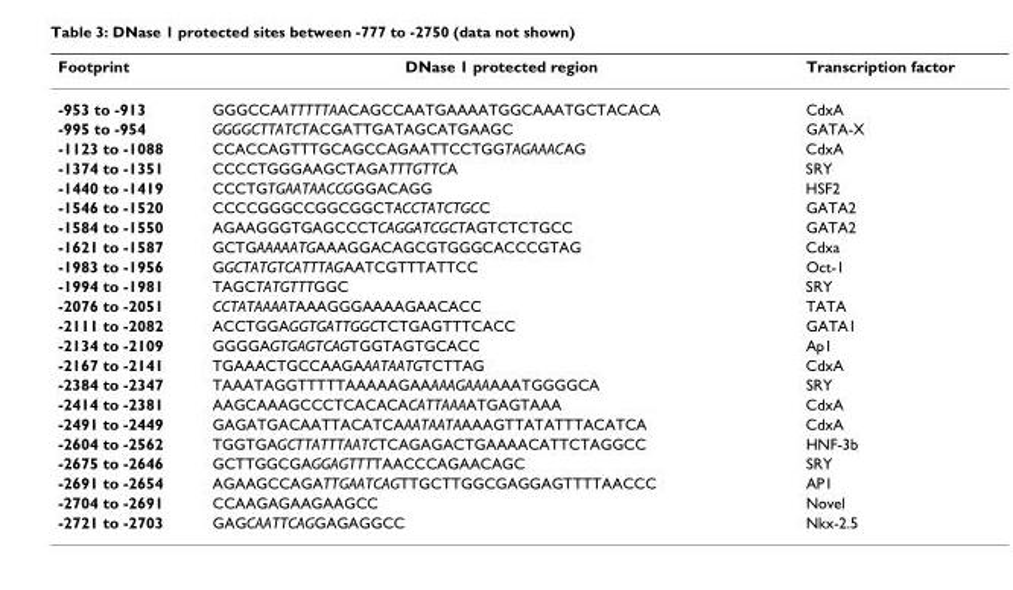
<table><thead><tr><td>Footprint</td><td>DNase 1 protected region</td><td>Transcription factor</td></tr></thead><tbody><tr><td>-953 to -913</td><td>GGGCCAATTTTTAACAGCCAATGAAAATGGCAAATGCTACACA</td><td>CdxA</td></tr><tr><td>-995 to -954</td><td>GGGGCTTATCTACGATTGATAGCATGAAGC</td><td>GATA-X</td></tr><tr><td>-1123 to -1088</td><td>CCACCAGTTTGCAGCCAGAATTCCTGGTAGAAACAG</td><td>CdxA</td></tr><tr><td>-1374 to -1351</td><td>CCCCTGGGAAGCTAGATTTGTTCA</td><td>SRY</td></tr><tr><td>-1440 to -1419</td><td>CCCTGTGAATAACCGGGACAGG</td><td>HSF2</td></tr><tr><td>-1546 to -1520</td><td>CCCCGGGCCGGCGGCTACCTATCTGCC</td><td>GATA2</td></tr><tr><td>-1584 to -1550</td><td>AGAAGGGTGAGCCCTCAGGATCGCTAGTCTCTGCC</td><td>GATA2</td></tr><tr><td>-1621 to -1587</td><td>GCTGAAAAATGAAAGGACAGCGTGGGCACCCGTAG</td><td>Cdxa</td></tr><tr><td>-1983 to -1956</td><td>GGCTATGTCATTTAGAATCGTTTATTCC</td><td>Oct-1</td></tr><tr><td>-1994 to -1981</td><td>TAGCTATGTTTGGC</td><td>SRY</td></tr><tr><td>-2076 to -2051</td><td>CCTATAAAATAAAGGGAAAAGAACACC</td><td>TATA</td></tr><tr><td>-2111 to -2082</td><td>ACCTGGAGGTGATTGGCTCTGAGTTTCACC</td><td>GATA1</td></tr><tr><td>-2134 to -2109</td><td>GGGGAGTGAGTCAGTGGTAGTGCACC</td><td>Ap1</td></tr><tr><td>-2167 to -2141</td><td>TGAAACTGCCAAGAAATAATGTCTTAG</td><td>CdxA</td></tr><tr><td>-2384 to -2347</td><td>TAAATAGGTTTTTAAAAAGAAAAAGAAAAAATGGGGCA</td><td>SRY</td></tr><tr><td>-2414 to -2381</td><td>AAGCAAAGCCCTCACACACATTAAAATGAGTAAA</td><td>CdxA</td></tr><tr><td>-2491 to -2449</td><td>GAGATGACAATTACATCAAATAATAAAAGTTATATTTACATCA</td><td>CdxA</td></tr><tr><td>-2604 to -2562</td><td>TGGTGAGCTTATTTAATCTCAGAGACTGAAAACATTCTAGGCC</td><td>HNF-3b</td></tr><tr><td>-2675 to -2646</td><td>GCTTGGCGAGGAGTTTTAACCCAGAACAGC</td><td>SRY</td></tr><tr><td>-2691 to -2654</td><td>AGAAGCCAGATTGAATCAGTTGCTTGGCGAGGAGTTTTAACCC</td><td>AP1</td></tr><tr><td>-2704 to -2691</td><td>CCAAGAGAAGAAGCC</td><td>Novel</td></tr><tr><td>-2721 to -2703</td><td>GAGCAATTCAGGAGAGGCC</td><td>Nkx-2.5</td></tr></tbody></table>